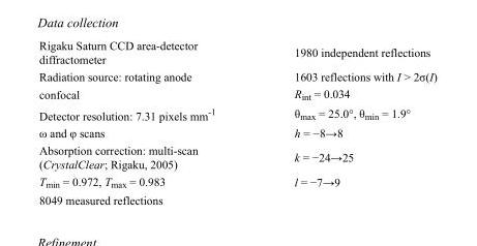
<table><tbody><tr><td>Rigaku Saturn CCD area-detector diffractometer</td><td>1980 independent reflections</td></tr><tr><td>Radiation source: rotating anode</td><td>1603 reflections with I &gt; 2σ(I)</td></tr><tr><td>confocal</td><td>R<sub>int</sub> = 0.034</td></tr><tr><td>Detector resolution: 7.31 pixels mm<sup>-1</sup></td><td>θ<sub>max</sub> = 25.0°, θ<sub>min</sub> = 1.9°</td></tr><tr><td>ω and φ scans</td><td>h = −8→8</td></tr><tr><td>Absorption correction: multi-scan (CrystalClear; Rigaku, 2005)</td><td>k = −24→25</td></tr><tr><td>T<sub>min</sub> = 0.972, T<sub>max</sub> = 0.983</td><td>l = −7→9</td></tr><tr><td>8049 measured reflections</td><td></td></tr></tbody></table>